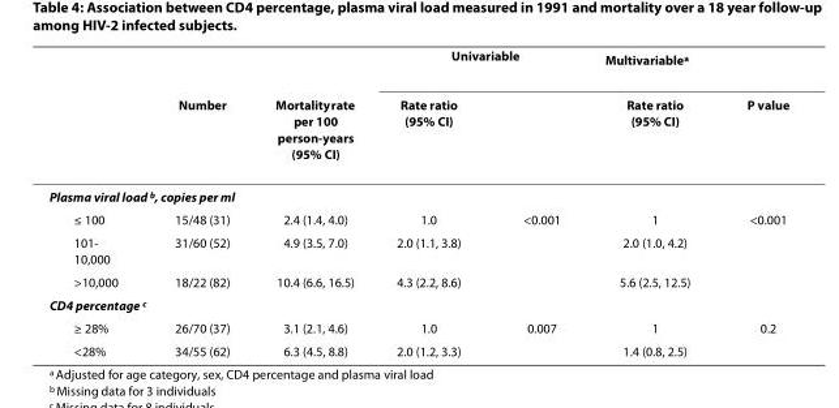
<table><thead><tr><td rowspan="2"></td><td rowspan="2">Number</td><td rowspan="2">Mortality rate per 100 person-years (95% CI)</td><td colspan="2">Univariable</td><td colspan="2">Multivariable<sup>a</sup></td></tr><tr><td>Rate ratio (95% CI)</td><td></td><td>Rate ratio (95% CI)</td><td>P value</td></tr></thead><tbody><tr><td colspan="7">Plasma viral load <sup>b</sup>, copies per ml</td></tr><tr><td>≤ 100</td><td>15/48 (31)</td><td>2.4 (1.4, 4.0)</td><td>1.0</td><td>&lt;0.001</td><td>1</td><td>&lt;0.001</td></tr><tr><td>101- 10,000</td><td>31/60 (52)</td><td>4.9 (3.5, 7.0)</td><td>2.0 (1.1, 3.8)</td><td></td><td>2.0 (1.0, 4.2)</td><td></td></tr><tr><td>&gt;10,000</td><td>18/22 (82)</td><td>10.4 (6.6, 16.5)</td><td>4.3 (2.2, 8.6)</td><td></td><td>5.6 (2.5, 12.5)</td><td></td></tr><tr><td colspan="7">CD4 percentage <sup>c</sup></td></tr><tr><td>≥ 28%</td><td>26/70 (37)</td><td>3.1 (2.1, 4.6)</td><td>1.0</td><td>0.007</td><td>1</td><td>0.2</td></tr><tr><td>&lt;28%</td><td>34/55 (62)</td><td>6.3 (4.5, 8.8)</td><td>2.0 (1.2, 3.3)</td><td></td><td>1.4 (0.8, 2.5)</td><td></td></tr></tbody></table>